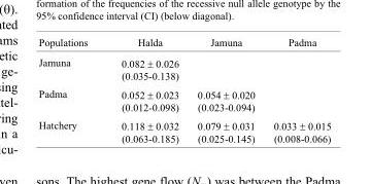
<table><thead><tr><td>Populations</td><td>Halda</td><td>Jamuna</td><td>Padma</td></tr></thead><tbody><tr><td>Jamuna</td><td>0.082 ± 0.026 (0.035-0.138)</td><td></td><td></td></tr><tr><td>Padma</td><td>0.052 ± 0.023 (0.012-0.098)</td><td>0.054 ± 0.020 (0.023-0.094)</td><td></td></tr><tr><td>Hatchery</td><td>0.118 ± 0.032 (0.063-0.185)</td><td>0.079 ± 0.031 (0.025-0.145)</td><td>0.033 ± 0.015 (0.008-0.066)</td></tr></tbody></table>